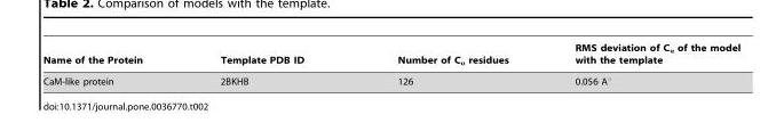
<table><thead><tr><td>Name of the Protein</td><td>Template PDB ID</td><td>Number of C<sub>α</sub> residues</td><td>RMS deviation of C<sub>α</sub> of the model with the template</td></tr></thead><tbody><tr><td>CaM-like protein</td><td>2BKHB</td><td>126</td><td>0.056 A°</td></tr></tbody></table>